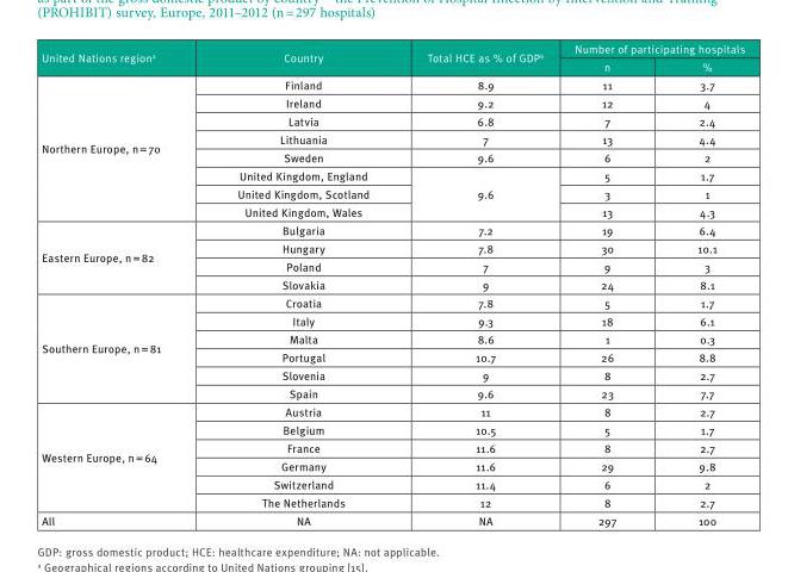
<table><thead><tr><td rowspan="2">United Nations region<sup>a</sup></td><td rowspan="2">Country</td><td rowspan="2">Total HCE as % of GDP<sup>b</sup></td><td colspan="2">Number of participating hospitals</td></tr><tr><td>n</td><td>%</td></tr></thead><tbody><tr><td rowspan="8">Northern Europe, n = 70</td><td>Finland</td><td>8.9</td><td>11</td><td>3.7</td></tr><tr><td>Ireland</td><td>9.2</td><td>12</td><td>4</td></tr><tr><td>Latvia</td><td>6.8</td><td>7</td><td>2.4</td></tr><tr><td>Lithuania</td><td>7</td><td>13</td><td>4.4</td></tr><tr><td>Sweden</td><td>9.6</td><td>6</td><td>2</td></tr><tr><td>United Kingdom, England</td><td rowspan="3">9.6</td><td>5</td><td>1.7</td></tr><tr><td>United Kingdom, Scotland</td><td>3</td><td>1</td></tr><tr><td>United Kingdom, Wales</td><td>13</td><td>4.3</td></tr><tr><td rowspan="4">Eastern Europe, n = 82</td><td>Bulgaria</td><td>7.2</td><td>19</td><td>6.4</td></tr><tr><td>Hungary</td><td>7.8</td><td>30</td><td>10.1</td></tr><tr><td>Poland</td><td>7</td><td>9</td><td>3</td></tr><tr><td>Slovakia</td><td>9</td><td>24</td><td>8.1</td></tr><tr><td rowspan="6">Southern Europe, n = 81</td><td>Croatia</td><td>7.8</td><td>5</td><td>1.7</td></tr><tr><td>Italy</td><td>9.3</td><td>18</td><td>6.1</td></tr><tr><td>Malta</td><td>8.6</td><td>1</td><td>0.3</td></tr><tr><td>Portugal</td><td>10.7</td><td>26</td><td>8.8</td></tr><tr><td>Slovenia</td><td>9</td><td>8</td><td>2.7</td></tr><tr><td>Spain</td><td>9.6</td><td>23</td><td>7.7</td></tr><tr><td rowspan="6">Western Europe, n = 64</td><td>Austria</td><td>11</td><td>8</td><td>2.7</td></tr><tr><td>Belgium</td><td>10.5</td><td>5</td><td>1.7</td></tr><tr><td>France</td><td>11.6</td><td>8</td><td>2.7</td></tr><tr><td>Germany</td><td>11.6</td><td>29</td><td>9.8</td></tr><tr><td>Switzerland</td><td>11.4</td><td>6</td><td>2</td></tr><tr><td>The Netherlands</td><td>12</td><td>8</td><td>2.7</td></tr><tr><td>All</td><td>NA</td><td>NA</td><td>297</td><td>100</td></tr></tbody></table>